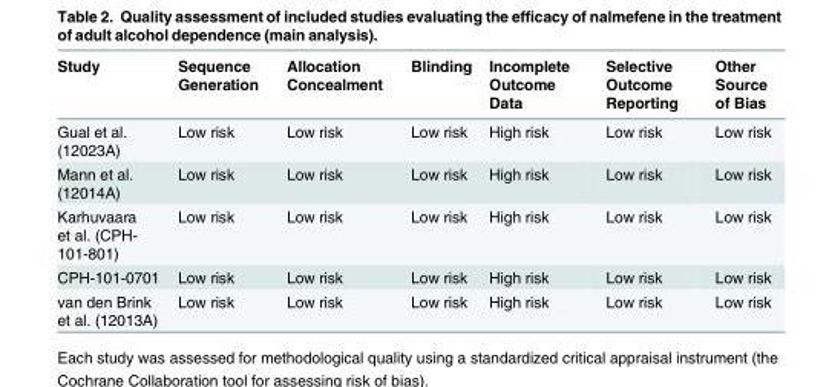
<table><thead><tr><td>Study</td><td>Sequence Generation</td><td>Allocation Concealment</td><td>Blinding</td><td>Incomplete Outcome Data</td><td>Selective Outcome Reporting</td><td>Other Source of Bias</td></tr></thead><tbody><tr><td>Gual et al. (12023A)</td><td>Low risk</td><td>Low risk</td><td>Low risk</td><td>High risk</td><td>Low risk</td><td>Low risk</td></tr><tr><td>Mann et al. (12014A)</td><td>Low risk</td><td>Low risk</td><td>Low risk</td><td>High risk</td><td>Low risk</td><td>Low risk</td></tr><tr><td>Karhuvaara et al. (CPH- 101-801)</td><td>Low risk</td><td>Low risk</td><td>Low risk</td><td>High risk</td><td>Low risk</td><td>Low risk</td></tr><tr><td>CPH-101-0701</td><td>Low risk</td><td>Low risk</td><td>Low risk</td><td>High risk</td><td>Low risk</td><td>Low risk</td></tr><tr><td>van den Brink et al. (12013A)</td><td>Low risk</td><td>Low risk</td><td>Low risk</td><td>High risk</td><td>Low risk</td><td>Low risk</td></tr></tbody></table>